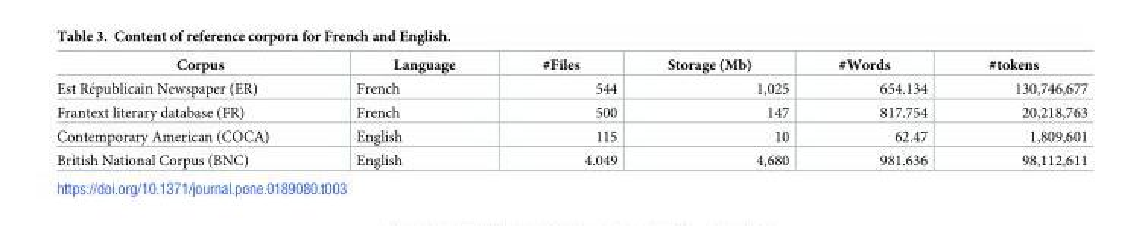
<table><thead><tr><td>Corpus</td><td>Language</td><td>#Files</td><td>Storage (Mb)</td><td>#Words</td><td>#tokens</td></tr></thead><tbody><tr><td>Est Re´publicain Newspaper (ER)</td><td>French</td><td>544</td><td>1,025</td><td>654.134</td><td>130,746,677</td></tr><tr><td>Frantext literary database (FR)</td><td>French</td><td>500</td><td>147</td><td>817.754</td><td>20,218,763</td></tr><tr><td>Contemporary American (COCA)</td><td>English</td><td>115</td><td>10</td><td>62.47</td><td>1,809,601</td></tr><tr><td>British National Corpus (BNC)</td><td>English</td><td>4.049</td><td>4,680</td><td>981.636</td><td>98,112,611</td></tr></tbody></table>